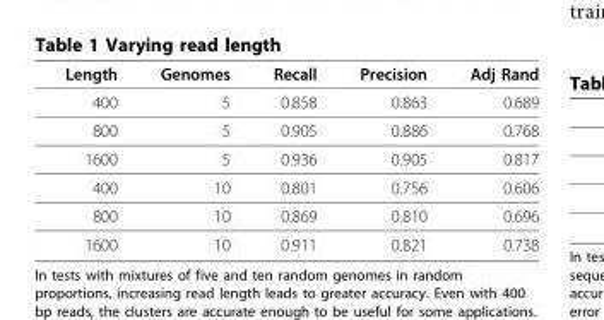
<table><thead><tr><td>Length</td><td>Genomes</td><td>Recall</td><td>Precision</td><td>Adj Rand</td></tr></thead><tbody><tr><td>400</td><td>5</td><td>0.858</td><td>0.863</td><td>0.689</td></tr><tr><td>800</td><td>5</td><td>0.905</td><td>0.886</td><td>0.768</td></tr><tr><td>1600</td><td>5</td><td>0.936</td><td>0.905</td><td>0.817</td></tr><tr><td>400</td><td>10</td><td>0.801</td><td>0.756</td><td>0.606</td></tr><tr><td>800</td><td>10</td><td>0.869</td><td>0.810</td><td>0.696</td></tr><tr><td>1600</td><td>10</td><td>0.911</td><td>0.821</td><td>0.738</td></tr></tbody></table>